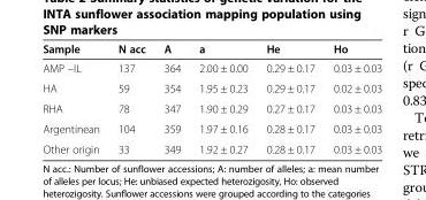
<table><thead><tr><td>Sample</td><td>N acc</td><td>A</td><td>a</td><td>He</td><td>Ho</td></tr></thead><tbody><tr><td>AMP –IL</td><td>137</td><td>364</td><td>2.00 ± 0.00</td><td>0.29 ± 0.17</td><td>0.03 ± 0.03</td></tr><tr><td>HA</td><td>59</td><td>354</td><td>1.95 ± 0.23</td><td>0.29 ± 0.17</td><td>0.02 ± 0.03</td></tr><tr><td>RHA</td><td>78</td><td>347</td><td>1.90 ± 0.29</td><td>0.27 ± 0.17</td><td>0.03 ± 0.03</td></tr><tr><td>Argentinean</td><td>104</td><td>359</td><td>1.97 ± 0.16</td><td>0.28 ± 0.17</td><td>0.03 ± 0.03</td></tr><tr><td>Other origin</td><td>33</td><td>349</td><td>1.92 ± 0.27</td><td>0.28 ± 0.17</td><td>0.03 ± 0.03</td></tr></tbody></table>